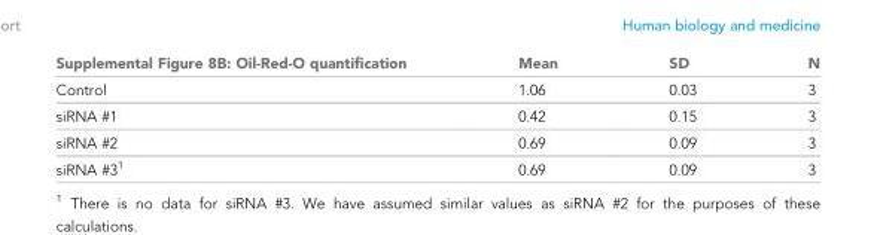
<table><thead><tr><td>Supplemental Figure 8B: Oil-Red-O quantification</td><td>Mean</td><td>SD</td><td>N</td></tr></thead><tbody><tr><td>Control</td><td>1.06</td><td>0.03</td><td>3</td></tr><tr><td>siRNA #1</td><td>0.42</td><td>0.15</td><td>3</td></tr><tr><td>siRNA #2</td><td>0.69</td><td>0.09</td><td>3</td></tr><tr><td>siRNA #3<sup>1</sup></td><td>0.69</td><td>0.09</td><td>3</td></tr></tbody></table>